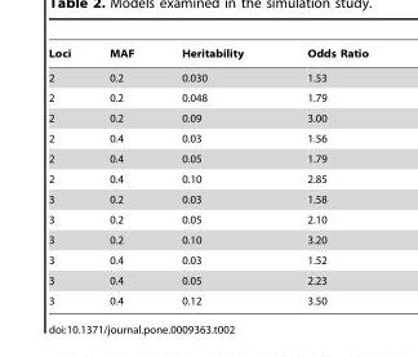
<table><thead><tr><td>Loci</td><td>MAF</td><td>Heritability</td><td>Odds Ratio</td></tr></thead><tbody><tr><td>2</td><td>0.2</td><td>0.030</td><td>1.53</td></tr><tr><td>2</td><td>0.2</td><td>0.048</td><td>1.79</td></tr><tr><td>2</td><td>0.2</td><td>0.09</td><td>3.00</td></tr><tr><td>2</td><td>0.4</td><td>0.03</td><td>1.56</td></tr><tr><td>2</td><td>0.4</td><td>0.05</td><td>1.79</td></tr><tr><td>2</td><td>0.4</td><td>0.10</td><td>2.85</td></tr><tr><td>3</td><td>0.2</td><td>0.03</td><td>1.58</td></tr><tr><td>3</td><td>0.2</td><td>0.05</td><td>2.10</td></tr><tr><td>3</td><td>0.2</td><td>0.10</td><td>3.20</td></tr><tr><td>3</td><td>0.4</td><td>0.03</td><td>1.52</td></tr><tr><td>3</td><td>0.4</td><td>0.05</td><td>2.23</td></tr><tr><td>3</td><td>0.4</td><td>0.12</td><td>3.50</td></tr></tbody></table>